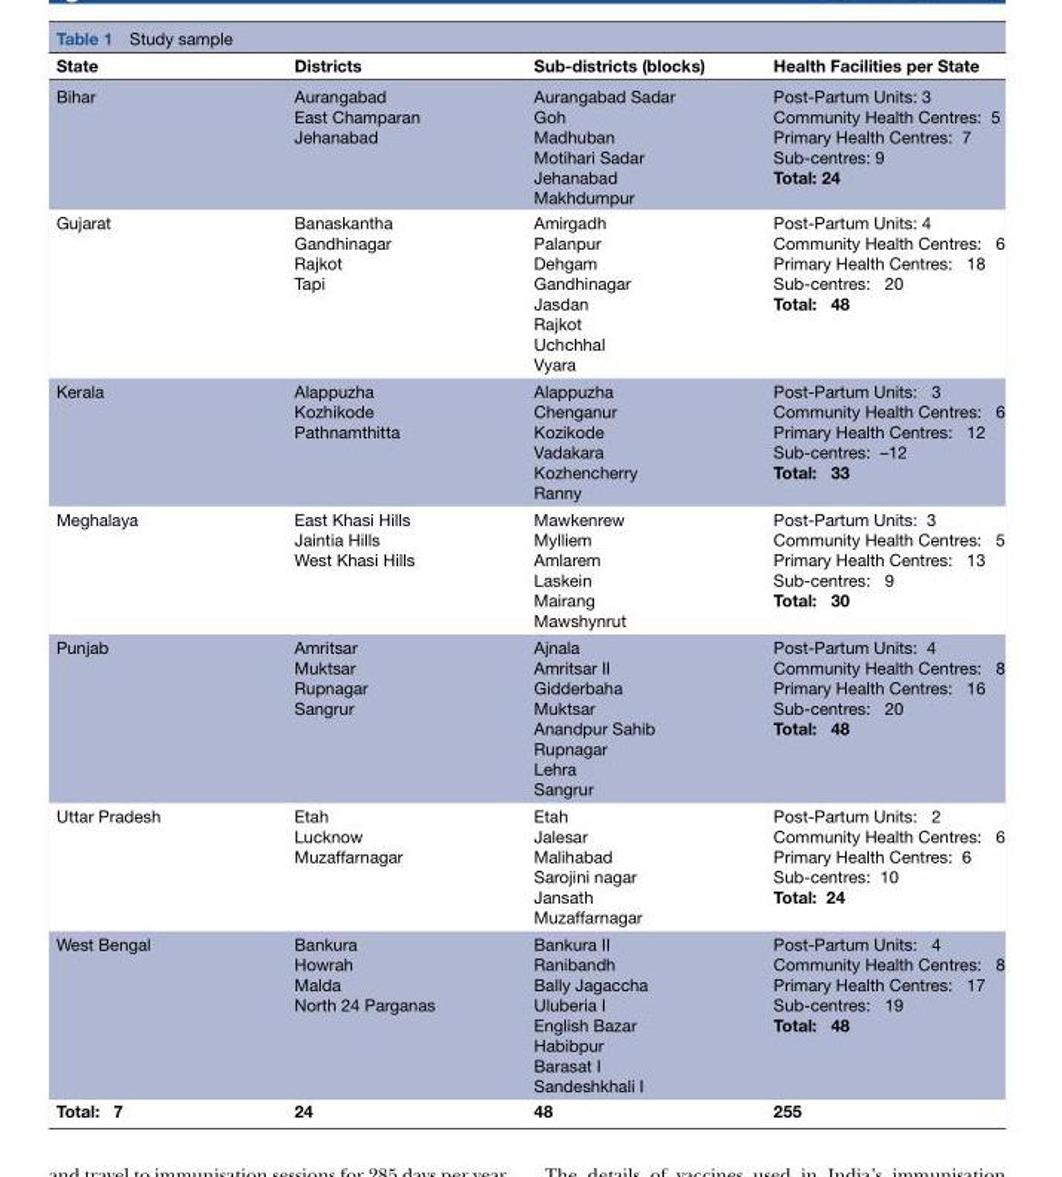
<table><thead><tr><td>State</td><td>Districts</td><td>Sub-districts (blocks)</td><td>Health Facilities per State</td></tr></thead><tbody><tr><td>Bihar</td><td>Aurangabad East Champaran Jehanabad</td><td>Aurangabad Sadar Goh Madhuban Motihari Sadar Jehanabad Makhdumpur</td><td>Post-Partum Units: 3 Community Health Centres: 5 Primary Health Centres: 7 Sub-centres: 9 Total: 24</td></tr><tr><td>Gujarat</td><td>Banaskantha Gandhinagar Rajkot Tapi</td><td>Amirgadh Palanpur Dehgam Gandhinagar Jasdan Rajkot Uchchhal Vyara</td><td>Post-Partum Units: 4 Community Health Centres: 6 Primary Health Centres: 18 Sub-centres: 20 Total: 48</td></tr><tr><td>Kerala</td><td>Alappuzha Kozhikode Pathnamthitta</td><td>Alappuzha Chenganur Kozikode Vadakara Kozhencherry Ranny</td><td>Post-Partum Units: 3 Community Health Centres: 6 Primary Health Centres: 12 Sub-centres: –12 Total: 33</td></tr><tr><td>Meghalaya</td><td>East Khasi Hills Jaintia Hills West Khasi Hills</td><td>Mawkenrew Mylliem Amlarem Laskein Mairang Mawshynrut</td><td>Post-Partum Units: 3 Community Health Centres: 5 Primary Health Centres: 13 Sub-centres: 9 Total: 30</td></tr><tr><td>Punjab</td><td>Amritsar Muktsar Rupnagar Sangrur</td><td>Ajnala Amritsar II Gidderbaha Muktsar Anandpur Sahib Rupnagar Lehra Sangrur</td><td>Post-Partum Units: 4 Community Health Centres: 8 Primary Health Centres: 16 Sub-centres: 20 Total: 48</td></tr><tr><td>Uttar Pradesh</td><td>Etah Lucknow Muzaffarnagar</td><td>Etah Jalesar Malihabad Sarojini nagar Jansath Muzaffarnagar</td><td>Post-Partum Units: 2 Community Health Centres: 6 Primary Health Centres: 6 Sub-centres: 10 Total: 24</td></tr><tr><td>West Bengal</td><td>Bankura Howrah Malda North 24 Parganas</td><td>Bankura II Ranibandh Bally Jagaccha Uluberia I English Bazar Habibpur Barasat I Sandeshkhali I</td><td>Post-Partum Units: 4 Community Health Centres: 8 Primary Health Centres: 17 Sub-centres: 19 Total: 48</td></tr><tr><td>Total: 7</td><td>24</td><td>48</td><td>255</td></tr></tbody></table>